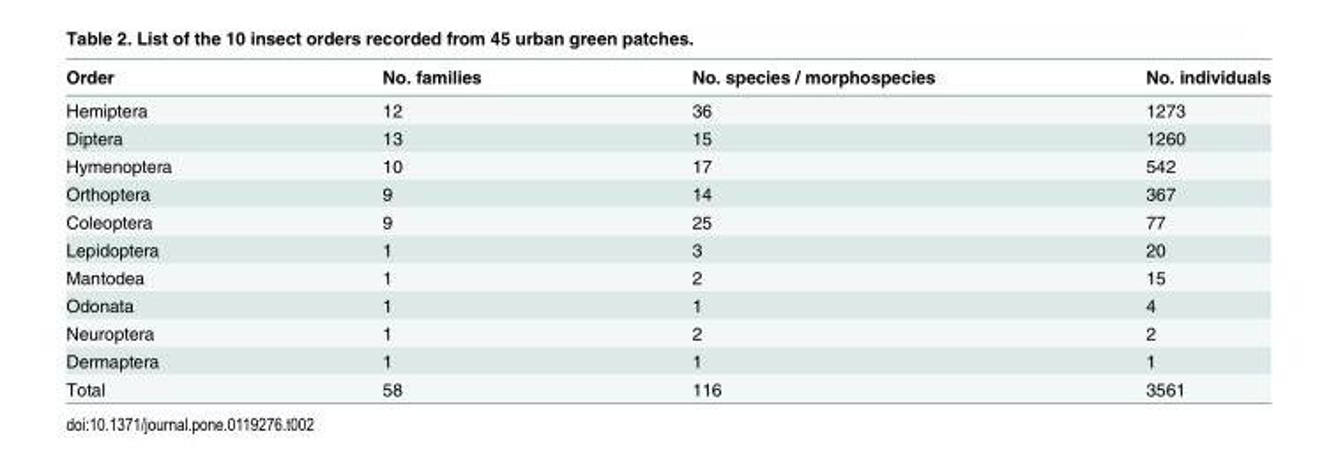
<table><thead><tr><td>Order</td><td>No. families</td><td>No. species / morphospecies</td><td>No. individuals</td></tr></thead><tbody><tr><td>Hemiptera</td><td>12</td><td>36</td><td>1273</td></tr><tr><td>Diptera</td><td>13</td><td>15</td><td>1260</td></tr><tr><td>Hymenoptera</td><td>10</td><td>17</td><td>542</td></tr><tr><td>Orthoptera</td><td>9</td><td>14</td><td>367</td></tr><tr><td>Coleoptera</td><td>9</td><td>25</td><td>77</td></tr><tr><td>Lepidoptera</td><td>1</td><td>3</td><td>20</td></tr><tr><td>Mantodea</td><td>1</td><td>2</td><td>15</td></tr><tr><td>Odonata</td><td>1</td><td>1</td><td>4</td></tr><tr><td>Neuroptera</td><td>1</td><td>2</td><td>2</td></tr><tr><td>Dermaptera</td><td>1</td><td>1</td><td>1</td></tr><tr><td>Total</td><td>58</td><td>116</td><td>3561</td></tr></tbody></table>